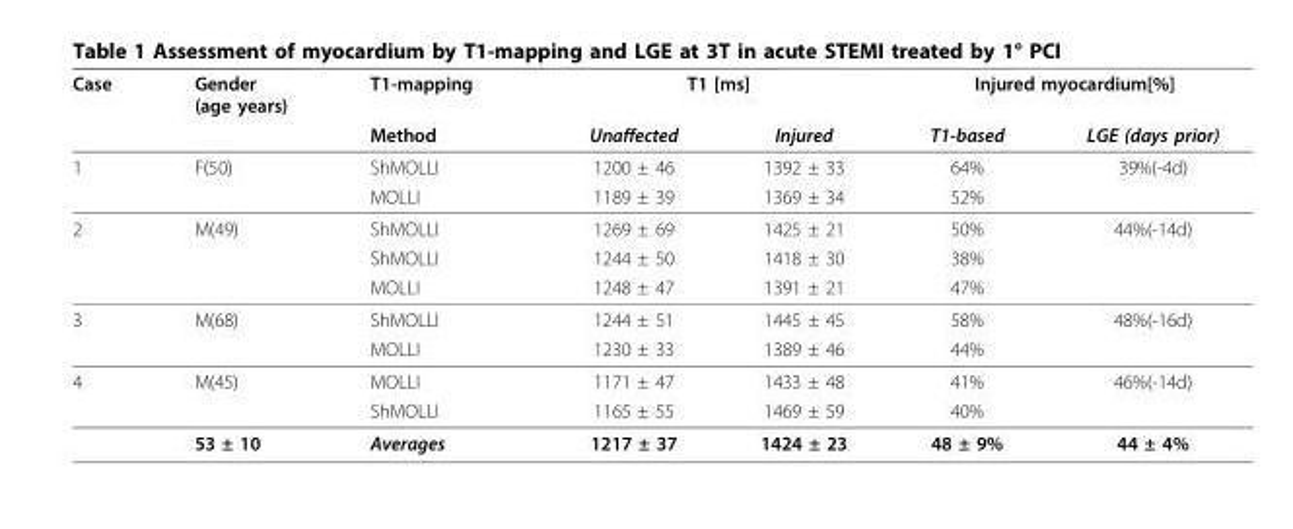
<table><thead><tr><td rowspan="2">Case</td><td rowspan="2">Gender (age years)</td><td rowspan="2">T1-mapping Method</td><td colspan="2">T1 [ms]</td><td colspan="2">Injured myocardium[%]</td></tr><tr><td>Unaffected</td><td>Injured</td><td>T1-based</td><td>LGE (days prior)</td></tr></thead><tbody><tr><td rowspan="2">1</td><td>F(50)</td><td>ShMOLLI</td><td>1200 ± 46</td><td>1392 ± 33</td><td>64%</td><td>39%(-4d)</td></tr><tr><td></td><td>MOLLI</td><td>1189 ± 39</td><td>1369 ± 34</td><td>52%</td><td></td></tr><tr><td rowspan="3">2</td><td>M(49)</td><td>ShMOLLI</td><td>1269 ± 69</td><td>1425 ± 21</td><td>50%</td><td>44%(-14d)</td></tr><tr><td></td><td>ShMOLLI</td><td>1244 ± 50</td><td>1418 ± 30</td><td>38%</td><td></td></tr><tr><td></td><td>MOLLI</td><td>1248 ± 47</td><td>1391 ± 21</td><td>47%</td><td></td></tr><tr><td rowspan="2">3</td><td>M(68)</td><td>ShMOLLI</td><td>1244 ± 51</td><td>1445 ± 45</td><td>58%</td><td>48%(-16d)</td></tr><tr><td></td><td>MOLLI</td><td>1230 ± 33</td><td>1389 ± 46</td><td>44%</td><td></td></tr><tr><td rowspan="3">4</td><td>M(45)</td><td>MOLLI</td><td>1171 ± 47</td><td>1433 ± 48</td><td>41%</td><td>46%(-14d)</td></tr><tr><td></td><td>ShMOLLI</td><td>1165 ± 55</td><td>1469 ± 59</td><td>40%</td><td></td></tr><tr><td>53 ± 10</td><td>Averages</td><td>1217 ± 37</td><td>1424 ± 23</td><td>48 ± 9%</td><td>44 ± 4%</td></tr></tbody></table>